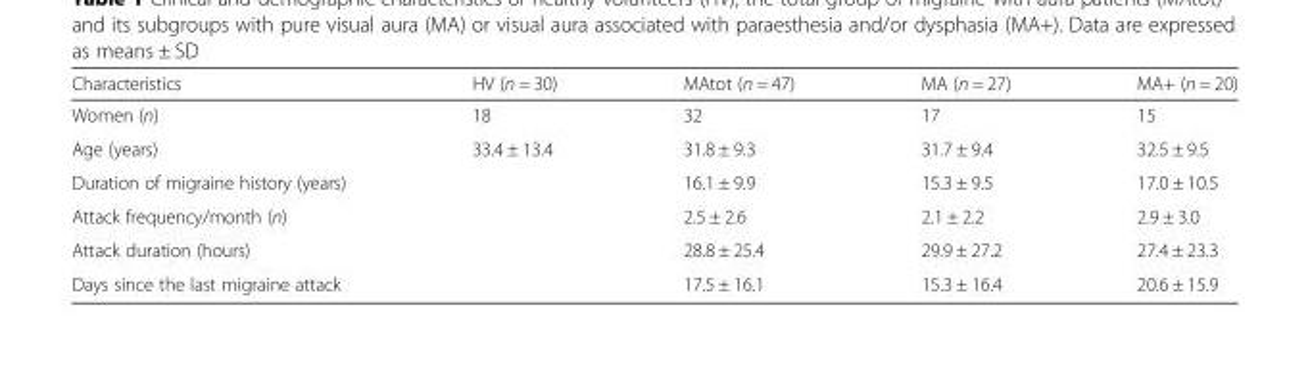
<table><thead><tr><td>Characteristics</td><td>HV (n = 30)</td><td>MAtot (n = 47)</td><td>MA (n = 27)</td><td>MA+ (n = 20)</td></tr></thead><tbody><tr><td>Women (n)</td><td>18</td><td>32</td><td>17</td><td>15</td></tr><tr><td>Age (years)</td><td>33.4 ± 13.4</td><td>31.8 ± 9.3</td><td>31.7 ± 9.4</td><td>32.5 ± 9.5</td></tr><tr><td>Duration of migraine history (years)</td><td></td><td>16.1 ± 9.9</td><td>15.3 ± 9.5</td><td>17.0 ± 10.5</td></tr><tr><td>Attack frequency/month (n)</td><td></td><td>2.5 ± 2.6</td><td>2.1 ± 2.2</td><td>2.9 ± 3.0</td></tr><tr><td>Attack duration (hours)</td><td></td><td>28.8 ± 25.4</td><td>29.9 ± 27.2</td><td>27.4 ± 23.3</td></tr><tr><td>Days since the last migraine attack</td><td></td><td>17.5 ± 16.1</td><td>15.3 ± 16.4</td><td>20.6 ± 15.9</td></tr></tbody></table>